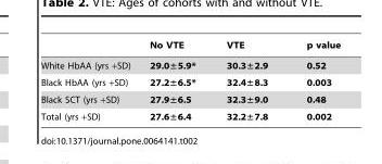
<table><thead><tr><td></td><td>No VTE</td><td>VTE</td><td>p value</td></tr></thead><tbody><tr><td>White HbAA (yrs +SD)</td><td>29.0±5.9*</td><td>30.3±2.9</td><td>0.52</td></tr><tr><td>Black HbAA (yrs +SD)</td><td>27.2±6.5*</td><td>32.4±8.3</td><td>0.003</td></tr><tr><td>Black SCT (yrs +SD)</td><td>27.9±6.5</td><td>32.3±9.0</td><td>0.48</td></tr><tr><td>Total (yrs +SD)</td><td>27.6±6.4</td><td>32.2±7.8</td><td>0.002</td></tr></tbody></table>